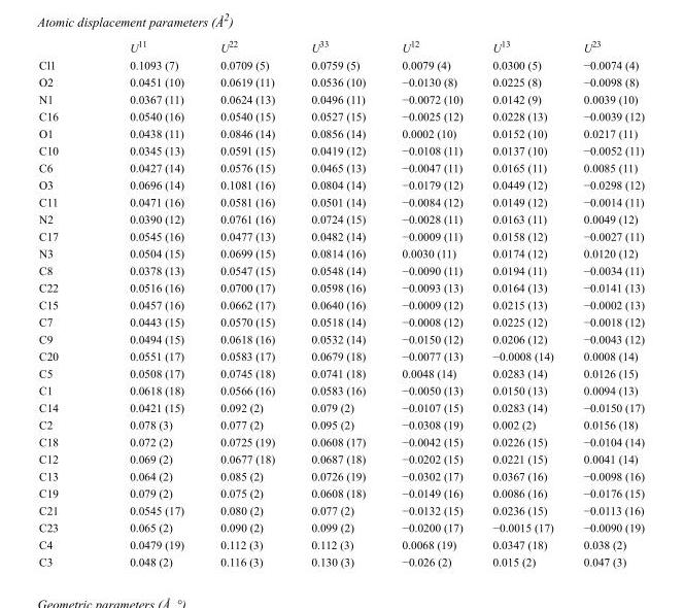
<table><thead><tr><td></td><td>U<sup>11</sup></td><td>U<sup>22</sup></td><td>U<sup>33</sup></td><td>U<sup>12</sup></td><td>U<sup>13</sup></td><td>U<sup>23</sup></td></tr></thead><tbody><tr><td>Cl1</td><td>0.1093 (7)</td><td>0.0709 (5)</td><td>0.0759 (5)</td><td>0.0079 (4)</td><td>0.0300 (5)</td><td>−0.0074 (4)</td></tr><tr><td>O2</td><td>0.0451 (10)</td><td>0.0619 (11)</td><td>0.0536 (10)</td><td>−0.0130 (8)</td><td>0.0225 (8)</td><td>−0.0098 (8)</td></tr><tr><td>N1</td><td>0.0367 (11)</td><td>0.0624 (13)</td><td>0.0496 (11)</td><td>−0.0072 (10)</td><td>0.0142 (9)</td><td>0.0039 (10)</td></tr><tr><td>C16</td><td>0.0540 (16)</td><td>0.0540 (15)</td><td>0.0527 (15)</td><td>−0.0025 (12)</td><td>0.0228 (13)</td><td>−0.0039 (12)</td></tr><tr><td>O1</td><td>0.0438 (11)</td><td>0.0846 (14)</td><td>0.0856 (14)</td><td>0.0002 (10)</td><td>0.0152 (10)</td><td>0.0217 (11)</td></tr><tr><td>C10</td><td>0.0345 (13)</td><td>0.0591 (15)</td><td>0.0419 (12)</td><td>−0.0108 (11)</td><td>0.0137 (10)</td><td>−0.0052 (11)</td></tr><tr><td>C6</td><td>0.0427 (14)</td><td>0.0576 (15)</td><td>0.0465 (13)</td><td>−0.0047 (11)</td><td>0.0165 (11)</td><td>0.0085 (11)</td></tr><tr><td>O3</td><td>0.0696 (14)</td><td>0.1081 (16)</td><td>0.0804 (14)</td><td>−0.0179 (12)</td><td>0.0449 (12)</td><td>−0.0298 (12)</td></tr><tr><td>C11</td><td>0.0471 (16)</td><td>0.0581 (16)</td><td>0.0501 (14)</td><td>−0.0084 (12)</td><td>0.0149 (12)</td><td>−0.0014 (11)</td></tr><tr><td>N2</td><td>0.0390 (12)</td><td>0.0761 (16)</td><td>0.0724 (15)</td><td>−0.0028 (11)</td><td>0.0163 (11)</td><td>0.0049 (12)</td></tr><tr><td>C17</td><td>0.0545 (16)</td><td>0.0477 (13)</td><td>0.0482 (14)</td><td>−0.0009 (11)</td><td>0.0158 (12)</td><td>−0.0027 (11)</td></tr><tr><td>N3</td><td>0.0504 (15)</td><td>0.0699 (15)</td><td>0.0814 (16)</td><td>0.0030 (11)</td><td>0.0174 (12)</td><td>0.0120 (12)</td></tr><tr><td>C8</td><td>0.0378 (13)</td><td>0.0547 (15)</td><td>0.0548 (14)</td><td>−0.0090 (11)</td><td>0.0194 (11)</td><td>−0.0034 (11)</td></tr><tr><td>C22</td><td>0.0516 (16)</td><td>0.0700 (17)</td><td>0.0598 (16)</td><td>−0.0093 (13)</td><td>0.0164 (13)</td><td>−0.0141 (13)</td></tr><tr><td>C15</td><td>0.0457 (16)</td><td>0.0662 (17)</td><td>0.0640 (16)</td><td>−0.0009 (12)</td><td>0.0215 (13)</td><td>−0.0002 (13)</td></tr><tr><td>C7</td><td>0.0443 (15)</td><td>0.0570 (15)</td><td>0.0518 (14)</td><td>−0.0008 (12)</td><td>0.0225 (12)</td><td>−0.0018 (12)</td></tr><tr><td>C9</td><td>0.0494 (15)</td><td>0.0618 (16)</td><td>0.0532 (14)</td><td>−0.0150 (12)</td><td>0.0206 (12)</td><td>−0.0043 (12)</td></tr><tr><td>C20</td><td>0.0551 (17)</td><td>0.0583 (17)</td><td>0.0679 (18)</td><td>−0.0077 (13)</td><td>−0.0008 (14)</td><td>0.0008 (14)</td></tr><tr><td>C5</td><td>0.0508 (17)</td><td>0.0745 (18)</td><td>0.0741 (18)</td><td>0.0048 (14)</td><td>0.0283 (14)</td><td>0.0126 (15)</td></tr><tr><td>C1</td><td>0.0618 (18)</td><td>0.0566 (16)</td><td>0.0583 (16)</td><td>−0.0050 (13)</td><td>0.0150 (13)</td><td>0.0094 (13)</td></tr><tr><td>C14</td><td>0.0421 (15)</td><td>0.092 (2)</td><td>0.079 (2)</td><td>−0.0107 (15)</td><td>0.0283 (14)</td><td>−0.0150 (17)</td></tr><tr><td>C2</td><td>0.078 (3)</td><td>0.077 (2)</td><td>0.095 (2)</td><td>−0.0308 (19)</td><td>0.002 (2)</td><td>0.0156 (18)</td></tr><tr><td>C18</td><td>0.072 (2)</td><td>0.0725 (19)</td><td>0.0608 (17)</td><td>−0.0042 (15)</td><td>0.0226 (15)</td><td>−0.0104 (14)</td></tr><tr><td>C12</td><td>0.069 (2)</td><td>0.0677 (18)</td><td>0.0687 (18)</td><td>−0.0202 (15)</td><td>0.0221 (15)</td><td>0.0041 (14)</td></tr><tr><td>C13</td><td>0.064 (2)</td><td>0.085 (2)</td><td>0.0726 (19)</td><td>−0.0302 (17)</td><td>0.0367 (16)</td><td>−0.0098 (16)</td></tr><tr><td>C19</td><td>0.079 (2)</td><td>0.075 (2)</td><td>0.0608 (18)</td><td>−0.0149 (16)</td><td>0.0086 (16)</td><td>−0.0176 (15)</td></tr><tr><td>C21</td><td>0.0545 (17)</td><td>0.080 (2)</td><td>0.077 (2)</td><td>−0.0132 (15)</td><td>0.0236 (15)</td><td>−0.0113 (16)</td></tr><tr><td>C23</td><td>0.065 (2)</td><td>0.090 (2)</td><td>0.099 (2)</td><td>−0.0200 (17)</td><td>−0.0015 (17)</td><td>−0.0090 (19)</td></tr><tr><td>C4</td><td>0.0479 (19)</td><td>0.112 (3)</td><td>0.112 (3)</td><td>0.0068 (19)</td><td>0.0347 (18)</td><td>0.038 (2)</td></tr><tr><td>C3</td><td>0.048 (2)</td><td>0.116 (3)</td><td>0.130 (3)</td><td>−0.026 (2)</td><td>0.015 (2)</td><td>0.047 (3)</td></tr></tbody></table>